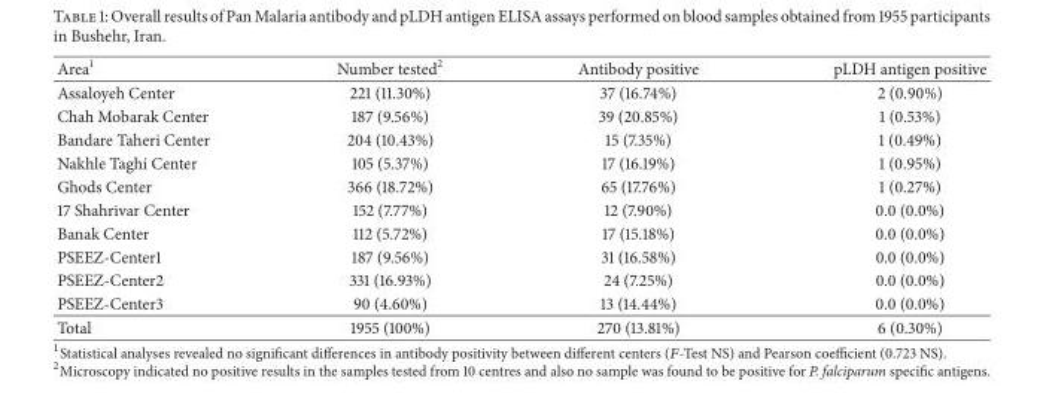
<table><thead><tr><td>Area<sup>1</sup></td><td>Number tested<sup>2</sup></td><td>Antibody positive</td><td>pLDH antigen positive</td></tr></thead><tbody><tr><td>Assaloyeh Center</td><td>221 (11.30%)</td><td>37 (16.74%)</td><td>2 (0.90%)</td></tr><tr><td>Chah Mobarak Center</td><td>187 (9.56%)</td><td>39 (20.85%)</td><td>1 (0.53%)</td></tr><tr><td>Bandare Taheri Center</td><td>204 (10.43%)</td><td>15 (7.35%)</td><td>1 (0.49%)</td></tr><tr><td>Nakhle Taghi Center</td><td>105 (5.37%)</td><td>17 (16.19%)</td><td>1 (0.95%)</td></tr><tr><td>Ghods Center</td><td>366 (18.72%)</td><td>65 (17.76%)</td><td>1 (0.27%)</td></tr><tr><td>17 Shahrivar Center</td><td>152 (7.77%)</td><td>12 (7.90%)</td><td>0.0 (0.0%)</td></tr><tr><td>Banak Center</td><td>112 (5.72%)</td><td>17 (15.18%)</td><td>0.0 (0.0%)</td></tr><tr><td>PSEEZ-Center1</td><td>187 (9.56%)</td><td>31 (16.58%)</td><td>0.0 (0.0%)</td></tr><tr><td>PSEEZ-Center2</td><td>331 (16.93%)</td><td>24 (7.25%)</td><td>0.0 (0.0%)</td></tr><tr><td>PSEEZ-Center3</td><td>90 (4.60%)</td><td>13 (14.44%)</td><td>0.0 (0.0%)</td></tr><tr><td>Total</td><td>1955 (100%)</td><td>270 (13.81%)</td><td>6 (0.30%)</td></tr></tbody></table>